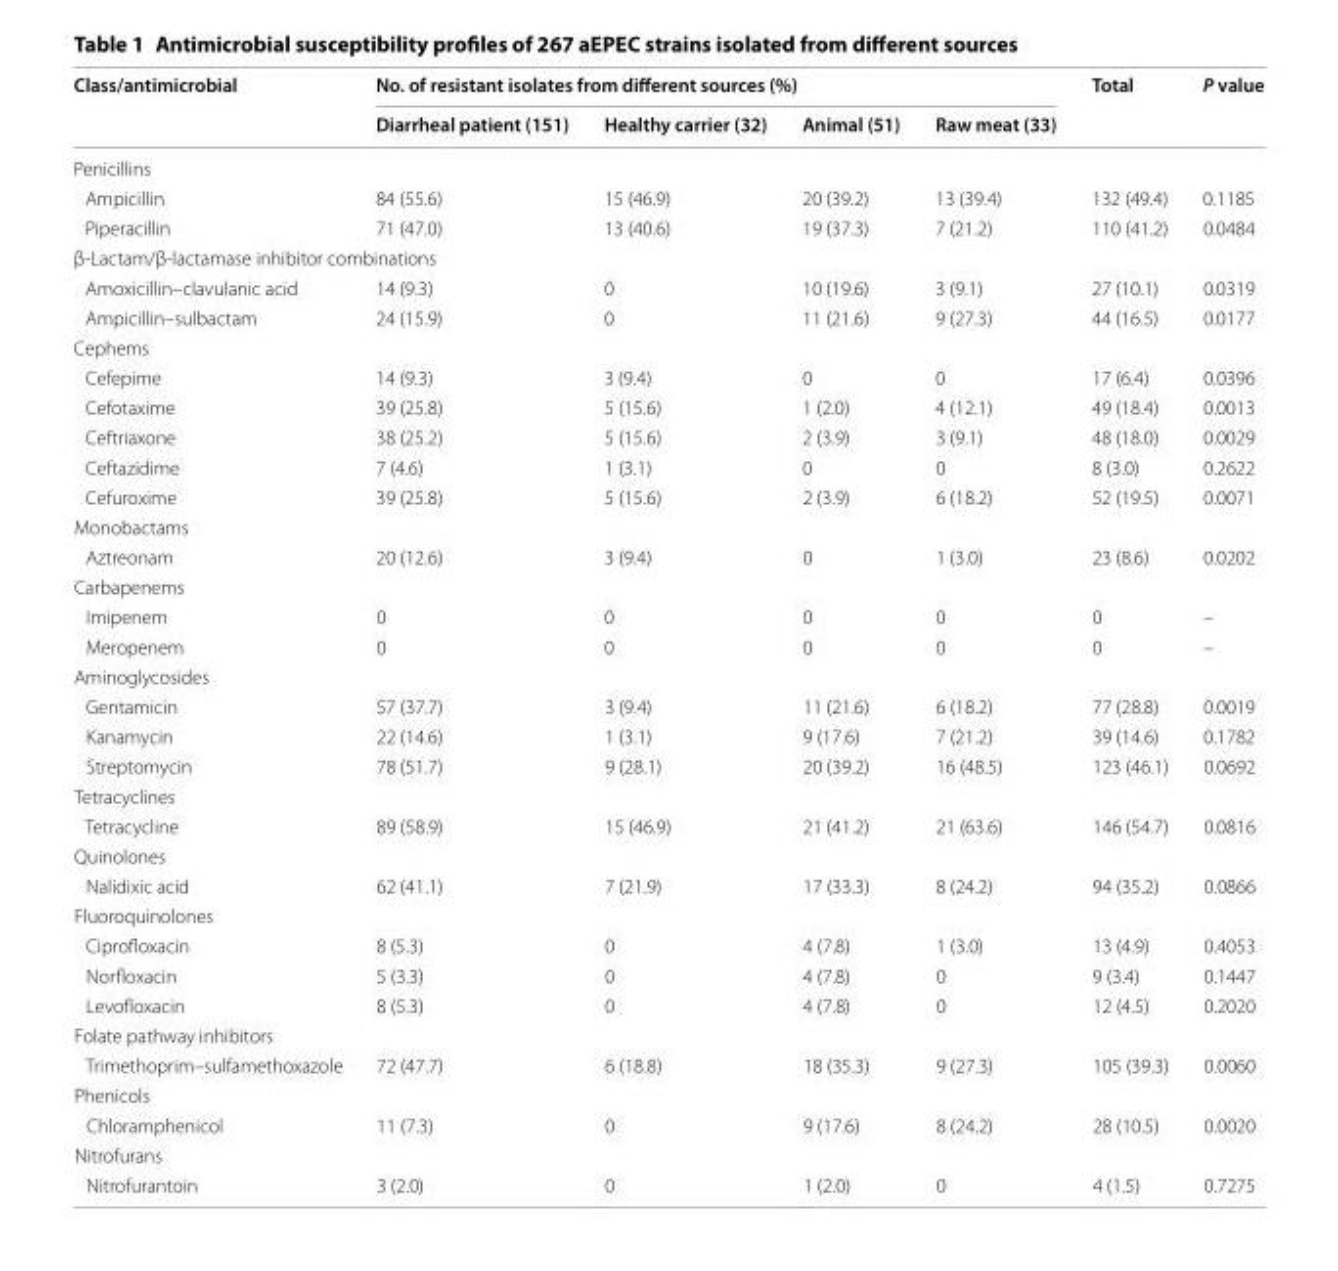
<table><thead><tr><td rowspan="2">Class/antimicrobial</td><td colspan="4">No. of resistant isolates from different sources (%)</td><td rowspan="2">Total</td><td rowspan="2">P value</td></tr><tr><td>Diarrheal patient (151)</td><td>Healthy carrier (32)</td><td>Animal (51)</td><td>Raw meat (33)</td></tr></thead><tbody><tr><td colspan="7">Penicillins</td></tr><tr><td>Ampicillin</td><td>84 (55.6)</td><td>15 (46.9)</td><td>20 (39.2)</td><td>13 (39.4)</td><td>132 (49.4)</td><td>0.1185</td></tr><tr><td>Piperacillin</td><td>71 (47.0)</td><td>13 (40.6)</td><td>19 (37.3)</td><td>7 (21.2)</td><td>110 (41.2)</td><td>0.0484</td></tr><tr><td colspan="7">β-Lactam/β-lactamase inhibitor combinations</td></tr><tr><td>Amoxicillin–clavulanic acid</td><td>14 (9.3)</td><td>0</td><td>10 (19.6)</td><td>3 (9.1)</td><td>27 (10.1)</td><td>0.0319</td></tr><tr><td>Ampicillin–sulbactam</td><td>24 (15.9)</td><td>0</td><td>11 (21.6)</td><td>9 (27.3)</td><td>44 (16.5)</td><td>0.0177</td></tr><tr><td colspan="7">Cephems</td></tr><tr><td>Cefepime</td><td>14 (9.3)</td><td>3 (9.4)</td><td>0</td><td>0</td><td>17 (6.4)</td><td>0.0396</td></tr><tr><td>Cefotaxime</td><td>39 (25.8)</td><td>5 (15.6)</td><td>1 (2.0)</td><td>4 (12.1)</td><td>49 (18.4)</td><td>0.0013</td></tr><tr><td>Ceftriaxone</td><td>38 (25.2)</td><td>5 (15.6)</td><td>2 (3.9)</td><td>3 (9.1)</td><td>48 (18.0)</td><td>0.0029</td></tr><tr><td>Ceftazidime</td><td>7 (4.6)</td><td>1 (3.1)</td><td>0</td><td>0</td><td>8 (3.0)</td><td>0.2622</td></tr><tr><td>Cefuroxime</td><td>39 (25.8)</td><td>5 (15.6)</td><td>2 (3.9)</td><td>6 (18.2)</td><td>52 (19.5)</td><td>0.0071</td></tr><tr><td colspan="7">Monobactams</td></tr><tr><td>Aztreonam</td><td>20 (12.6)</td><td>3 (9.4)</td><td>0</td><td>1 (3.0)</td><td>23 (8.6)</td><td>0.0202</td></tr><tr><td colspan="7">Carbapenems</td></tr><tr><td>Imipenem</td><td>0</td><td>0</td><td>0</td><td>0</td><td>0</td><td>–</td></tr><tr><td>Meropenem</td><td>0</td><td>0</td><td>0</td><td>0</td><td>0</td><td>–</td></tr><tr><td colspan="7">Aminoglycosides</td></tr><tr><td>Gentamicin</td><td>57 (37.7)</td><td>3 (9.4)</td><td>11 (21.6)</td><td>6 (18.2)</td><td>77 (28.8)</td><td>0.0019</td></tr><tr><td>Kanamycin</td><td>22 (14.6)</td><td>1 (3.1)</td><td>9 (17.6)</td><td>7 (21.2)</td><td>39 (14.6)</td><td>0.1782</td></tr><tr><td>Streptomycin</td><td>78 (51.7)</td><td>9 (28.1)</td><td>20 (39.2)</td><td>16 (48.5)</td><td>123 (46.1)</td><td>0.0692</td></tr><tr><td colspan="7">Tetracyclines</td></tr><tr><td>Tetracycline</td><td>89 (58.9)</td><td>15 (46.9)</td><td>21 (41.2)</td><td>21 (63.6)</td><td>146 (54.7)</td><td>0.0816</td></tr><tr><td colspan="7">Quinolones</td></tr><tr><td>Nalidixic acid</td><td>62 (41.1)</td><td>7 (21.9)</td><td>17 (33.3)</td><td>8 (24.2)</td><td>94 (35.2)</td><td>0.0866</td></tr><tr><td colspan="7">Fluoroquinolones</td></tr><tr><td>Ciprofloxacin</td><td>8 (5.3)</td><td>0</td><td>4 (7.8)</td><td>1 (3.0)</td><td>13 (4.9)</td><td>0.4053</td></tr><tr><td>Norfloxacin</td><td>5 (3.3)</td><td>0</td><td>4 (7.8)</td><td>0</td><td>9 (3.4)</td><td>0.1447</td></tr><tr><td>Levofloxacin</td><td>8 (5.3)</td><td>0</td><td>4 (7.8)</td><td>0</td><td>12 (4.5)</td><td>0.2020</td></tr><tr><td colspan="7">Folate pathway inhibitors</td></tr><tr><td>Trimethoprim–sulfamethoxazole</td><td>72 (47.7)</td><td>6 (18.8)</td><td>18 (35.3)</td><td>9 (27.3)</td><td>105 (39.3)</td><td>0.0060</td></tr><tr><td colspan="7">Phenicols</td></tr><tr><td>Chloramphenicol</td><td>11 (7.3)</td><td>0</td><td>9 (17.6)</td><td>8 (24.2)</td><td>28 (10.5)</td><td>0.0020</td></tr><tr><td colspan="7">Nitrofurans</td></tr><tr><td>Nitrofurantoin</td><td>3 (2.0)</td><td>0</td><td>1 (2.0)</td><td>0</td><td>4 (1.5)</td><td>0.7275</td></tr></tbody></table>